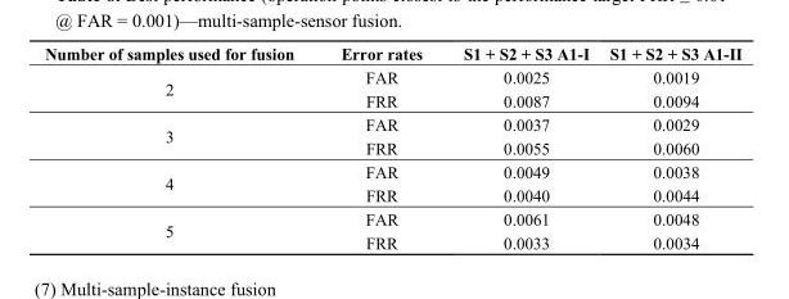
<table><thead><tr><td>Number of samples used for fusion</td><td>Error rates</td><td>S1 + S2 + S3 A1-I</td><td>S1 + S2 + S3 A1-II</td></tr></thead><tbody><tr><td rowspan="2">2</td><td>FAR</td><td>0.0025</td><td>0.0019</td></tr><tr><td>FRR</td><td>0.0087</td><td>0.0094</td></tr><tr><td rowspan="2">3</td><td>FAR</td><td>0.0037</td><td>0.0029</td></tr><tr><td>FRR</td><td>0.0055</td><td>0.0060</td></tr><tr><td rowspan="2">4</td><td>FAR</td><td>0.0049</td><td>0.0038</td></tr><tr><td>FRR</td><td>0.0040</td><td>0.0044</td></tr><tr><td rowspan="2">5</td><td>FAR</td><td>0.0061</td><td>0.0048</td></tr><tr><td>FRR</td><td>0.0033</td><td>0.0034</td></tr></tbody></table>